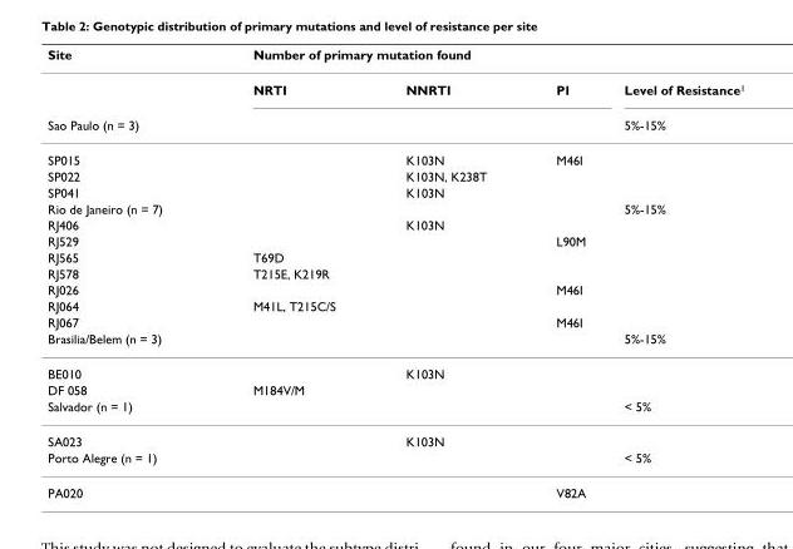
<table><thead><tr><td rowspan="2">Site</td><td colspan="4">Number of primary mutation found</td></tr><tr><td>NRTI</td><td>NNRTI</td><td>PI</td><td>Level of Resistance<sup>1</sup></td></tr></thead><tbody><tr><td>Sao Paulo (n = 3)</td><td></td><td></td><td></td><td>5%-15%</td></tr><tr><td>SP015</td><td></td><td>K103N</td><td>M46I</td><td></td></tr><tr><td>SP022</td><td></td><td>K103N, K238T</td><td></td><td></td></tr><tr><td>SP041</td><td></td><td>K103N</td><td></td><td></td></tr><tr><td>Rio de Janeiro (n = 7)</td><td></td><td></td><td></td><td>5%-15%</td></tr><tr><td>RJ406</td><td></td><td>K103N</td><td></td><td></td></tr><tr><td>RJ529</td><td></td><td></td><td>L90M</td><td></td></tr><tr><td>RJ565</td><td>T69D</td><td></td><td></td><td></td></tr><tr><td>RJ578</td><td>T215E, K219R</td><td></td><td></td><td></td></tr><tr><td>RJ026</td><td></td><td></td><td>M46I</td><td></td></tr><tr><td>RJ064</td><td>M41L, T215C/S</td><td></td><td></td><td></td></tr><tr><td>RJ067</td><td></td><td></td><td>M46I</td><td></td></tr><tr><td>Brasilia/Belem (n = 3)</td><td></td><td></td><td></td><td>5%-15%</td></tr><tr><td>BE010</td><td></td><td>K103N</td><td></td><td></td></tr><tr><td>DF 058</td><td>M184V/M</td><td></td><td></td><td></td></tr><tr><td>Salvador (n = 1)</td><td></td><td></td><td></td><td>&lt; 5%</td></tr><tr><td>SA023</td><td></td><td>K103N</td><td></td><td></td></tr><tr><td>Porto Alegre (n = 1)</td><td></td><td></td><td></td><td>&lt; 5%</td></tr><tr><td>PA020</td><td></td><td></td><td>V82A</td><td></td></tr></tbody></table>